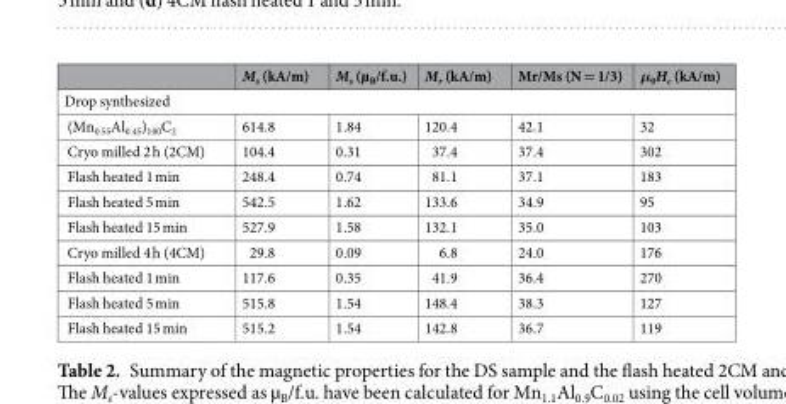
<table><thead><tr><td></td><td>M<sub>s</sub> (kA/m)</td><td>M<sub>s</sub> (µ<sub>B</sub>/f.u.)</td><td>M<sub>r</sub> (kA/m)</td><td>Mr/Ms (N = 1/3)</td><td>μ<sub>0</sub>H<sub>c</sub> (kA/m)</td></tr></thead><tbody><tr><td colspan="6">Drop synthesized</td></tr><tr><td>(Mn<sub>0.55</sub>Al<sub>0.45</sub>)<sub>100</sub>C<sub>2</sub></td><td>614.8</td><td>1.84</td><td>120.4</td><td>42.1</td><td>32</td></tr><tr><td>Cryo milled 2 h (2CM)</td><td>104.4</td><td>0.31</td><td>37.4</td><td>37.4</td><td>302</td></tr><tr><td>Flash heated 1 min</td><td>248.4</td><td>0.74</td><td>81.1</td><td>37.1</td><td>183</td></tr><tr><td>Flash heated 5 min</td><td>542.5</td><td>1.62</td><td>133.6</td><td>34.9</td><td>95</td></tr><tr><td>Flash heated 15 min</td><td>527.9</td><td>1.58</td><td>132.1</td><td>35.0</td><td>103</td></tr><tr><td>Cryo milled 4 h (4CM)</td><td>29.8</td><td>0.09</td><td>6.8</td><td>24.0</td><td>176</td></tr><tr><td>Flash heated 1 min</td><td>117.6</td><td>0.35</td><td>41.9</td><td>36.4</td><td>270</td></tr><tr><td>Flash heated 5 min</td><td>515.8</td><td>1.54</td><td>148.4</td><td>38.3</td><td>127</td></tr><tr><td>Flash heated 15 min</td><td>515.2</td><td>1.54</td><td>142.8</td><td>36.7</td><td>119</td></tr></tbody></table>